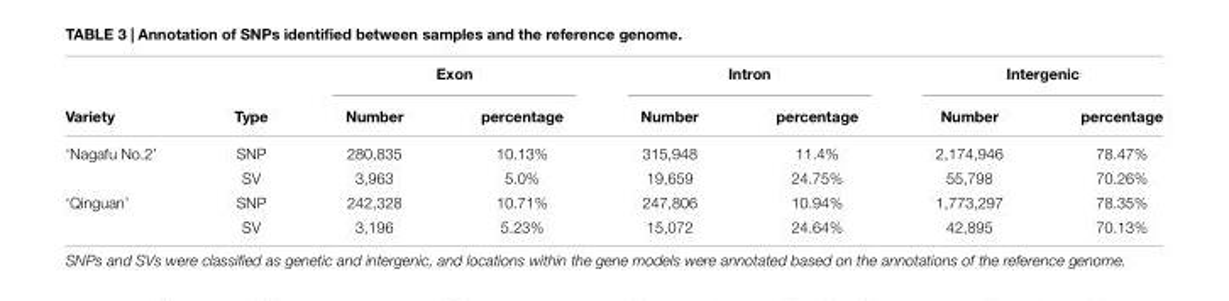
<table><thead><tr><td rowspan="2">Variety</td><td rowspan="2">Type</td><td colspan="2">Exon</td><td colspan="2">Intron</td><td colspan="2">Intergenic</td></tr><tr><td>Number</td><td>percentage</td><td>Number</td><td>percentage</td><td>Number</td><td>percentage</td></tr></thead><tbody><tr><td rowspan="2">‘Nagafu No.2’</td><td>SNP</td><td>280,835</td><td>10.13%</td><td>315,948</td><td>11.4%</td><td>2,174,946</td><td>78.47%</td></tr><tr><td>SV</td><td>3,963</td><td>5.0%</td><td>19,659</td><td>24.75%</td><td>55,798</td><td>70.26%</td></tr><tr><td rowspan="2">‘Qinguan’</td><td>SNP</td><td>242,328</td><td>10.71%</td><td>247,806</td><td>10.94%</td><td>1,773,297</td><td>78.35%</td></tr><tr><td>SV</td><td>3,196</td><td>5.23%</td><td>15,072</td><td>24.64%</td><td>42,895</td><td>70.13%</td></tr></tbody></table>